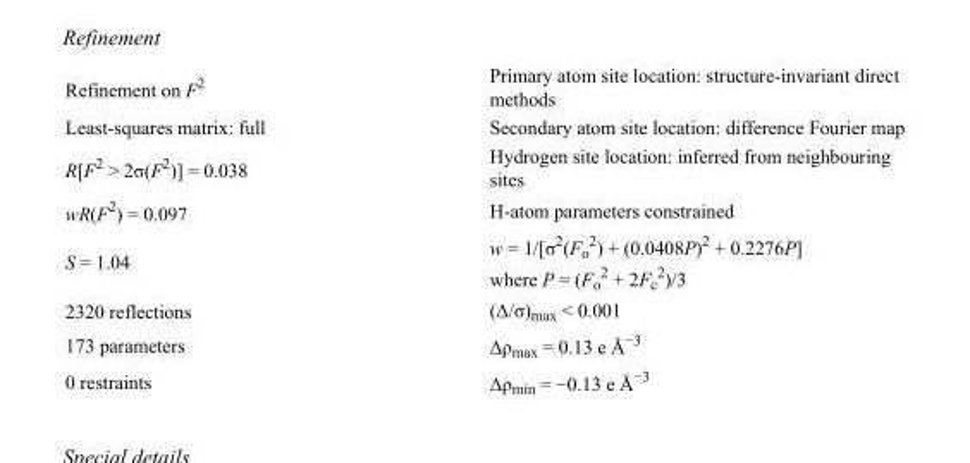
<table><tbody><tr><td>Refinement on F<sup>2</sup></td><td>Primary atom site location: structure-invariant direct methods</td></tr><tr><td>Least-squares matrix: full</td><td>Secondary atom site location: difference Fourier map</td></tr><tr><td>R[F<sup>2</sup> &gt; 2σ(F<sup>2</sup>)] = 0.038</td><td>Hydrogen site location: inferred from neighbouring sites</td></tr><tr><td>wR(F<sup>2</sup>) = 0.097</td><td>H-atom parameters constrained</td></tr><tr><td>S = 1.04</td><td>w = 1/[σ<sup>2</sup>(F<sub>o</sub> <sup>2</sup>) + (0.0408P)<sup>2</sup> + 0.2276P] where P = (F<sub>o</sub> <sup>2</sup> + 2F<sub>c</sub> <sup>2</sup>)/3</td></tr><tr><td>2320 reflections</td><td>(Δ/σ)<sub>max</sub> &lt; 0.001</td></tr><tr><td>173 parameters</td><td>Δρ<sub>max</sub> = 0.13 e Å<sup>−3</sup></td></tr><tr><td>0 restraints</td><td>Δρ<sub>min</sub> = −0.13 e Å<sup>−3</sup></td></tr></tbody></table>